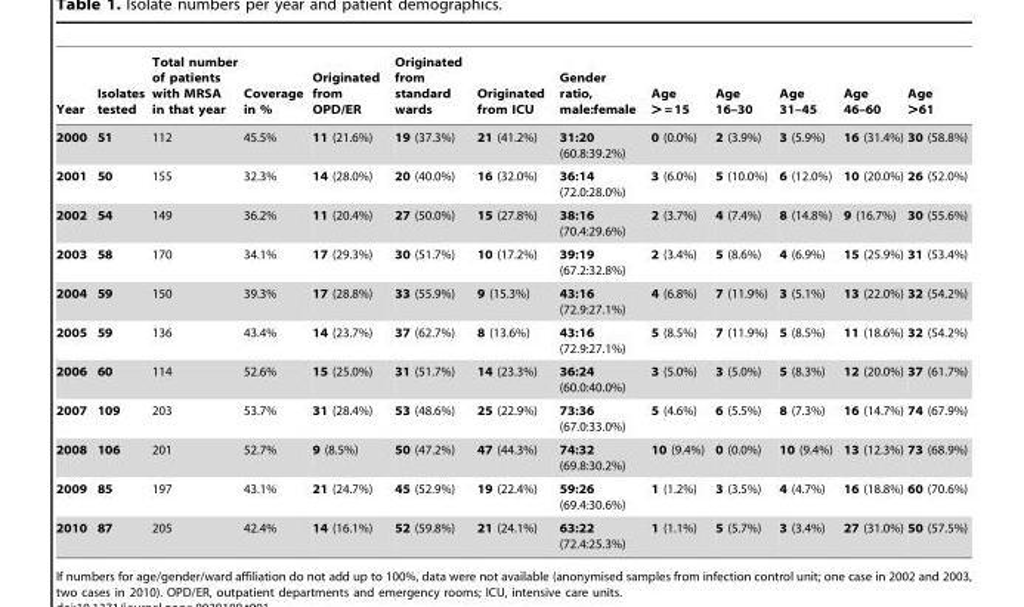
<table><thead><tr><td>Year</td><td>Isolates tested</td><td>Total number of patients with MRSA in that year</td><td>Coverage in %</td><td>Originated from OPD/ER</td><td>Originated from standard wards</td><td>Originated from ICU</td><td>Gender ratio, male:female</td><td>Age &gt; = 15</td><td>Age 16–30</td><td>Age 31–45</td><td>Age 46–60</td><td>Age &gt;61</td></tr></thead><tbody><tr><td>2000</td><td>51</td><td>112</td><td>45.5%</td><td>11 (21.6%)</td><td>19 (37.3%)</td><td>21 (41.2%)</td><td>31:20 (60.8:39.2%)</td><td>0 (0.0%)</td><td>2 (3.9%)</td><td>3 (5.9%)</td><td>16 (31.4%)</td><td>30 (58.8%)</td></tr><tr><td>2001</td><td>50</td><td>155</td><td>32.3%</td><td>14 (28.0%)</td><td>20 (40.0%)</td><td>16 (32.0%)</td><td>36:14 (72.0:28.0%)</td><td>3 (6.0%)</td><td>5 (10.0%)</td><td>6 (12.0%)</td><td>10 (20.0%)</td><td>26 (52.0%)</td></tr><tr><td>2002</td><td>54</td><td>149</td><td>36.2%</td><td>11 (20.4%)</td><td>27 (50.0%)</td><td>15 (27.8%)</td><td>38:16 (70.4:29.6%)</td><td>2 (3.7%)</td><td>4 (7.4%)</td><td>8 (14.8%)</td><td>9 (16.7%)</td><td>30 (55.6%)</td></tr><tr><td>2003</td><td>58</td><td>170</td><td>34.1%</td><td>17 (29.3%)</td><td>30 (51.7%)</td><td>10 (17.2%)</td><td>39:19 (67.2:32.8%)</td><td>2 (3.4%)</td><td>5 (8.6%)</td><td>4 (6.9%)</td><td>15 (25.9%)</td><td>31 (53.4%)</td></tr><tr><td>2004</td><td>59</td><td>150</td><td>39.3%</td><td>17 (28.8%)</td><td>33 (55.9%)</td><td>9 (15.3%)</td><td>43:16 (72.9:27.1%)</td><td>4 (6.8%)</td><td>7 (11.9%)</td><td>3 (5.1%)</td><td>13 (22.0%)</td><td>32 (54.2%)</td></tr><tr><td>2005</td><td>59</td><td>136</td><td>43.4%</td><td>14 (23.7%)</td><td>37 (62.7%)</td><td>8 (13.6%)</td><td>43:16 (72.9:27.1%)</td><td>5 (8.5%)</td><td>7 (11.9%)</td><td>5 (8.5%)</td><td>11 (18.6%)</td><td>32 (54.2%)</td></tr><tr><td>2006</td><td>60</td><td>114</td><td>52.6%</td><td>15 (25.0%)</td><td>31 (51.7%)</td><td>14 (23.3%)</td><td>36:24 (60.0:40.0%)</td><td>3 (5.0%)</td><td>3 (5.0%)</td><td>5 (8.3%)</td><td>12 (20.0%)</td><td>37 (61.7%)</td></tr><tr><td>2007</td><td>109</td><td>203</td><td>53.7%</td><td>31 (28.4%)</td><td>53 (48.6%)</td><td>25 (22.9%)</td><td>73:36 (67.0:33.0%)</td><td>5 (4.6%)</td><td>6 (5.5%)</td><td>8 (7.3%)</td><td>16 (14.7%)</td><td>74 (67.9%)</td></tr><tr><td>2008</td><td>106</td><td>201</td><td>52.7%</td><td>9 (8.5%)</td><td>50 (47.2%)</td><td>47 (44.3%)</td><td>74:32 (69.8:30.2%)</td><td>10 (9.4%)</td><td>0 (0.0%)</td><td>10 (9.4%)</td><td>13 (12.3%)</td><td>73 (68.9%)</td></tr><tr><td>2009</td><td>85</td><td>197</td><td>43.1%</td><td>21 (24.7%)</td><td>45 (52.9%)</td><td>19 (22.4%)</td><td>59:26 (69.4:30.6%)</td><td>1 (1.2%)</td><td>3 (3.5%)</td><td>4 (4.7%)</td><td>16 (18.8%)</td><td>60 (70.6%)</td></tr><tr><td>2010</td><td>87</td><td>205</td><td>42.4%</td><td>14 (16.1%)</td><td>52 (59.8%)</td><td>21 (24.1%)</td><td>63:22 (72.4:25.3%)</td><td>1 (1.1%)</td><td>5 (5.7%)</td><td>3 (3.4%)</td><td>27 (31.0%)</td><td>50 (57.5%)</td></tr></tbody></table>